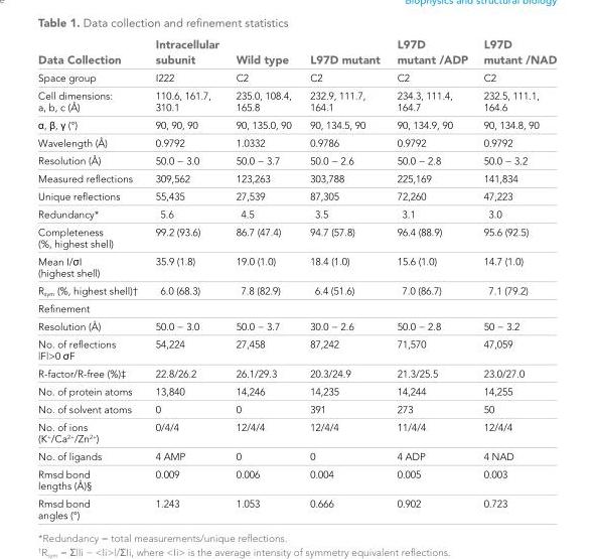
<table><thead><tr><td>Data Collection</td><td>Intracellular subunit</td><td>Wild type</td><td>L97D mutant</td><td>L97D mutant /ADP</td><td>L97D mutant /NAD</td></tr></thead><tbody><tr><td>Space group</td><td>I222</td><td>C2</td><td>C2</td><td>C2</td><td>C2</td></tr><tr><td>Cell dimensions: a, b, c (Å)</td><td>110.6, 161.7, 310.1</td><td>235.0, 108.4, 165.8</td><td>232.9, 111.7, 164.1</td><td>234.3, 111.4, 164.7</td><td>232.5, 111.1, 164.6</td></tr><tr><td>α, β, γ (°)</td><td>90, 90, 90</td><td>90, 135.0, 90</td><td>90, 134.5, 90</td><td>90, 134.9, 90</td><td>90, 134.8, 90</td></tr><tr><td>Wavelength (Å)</td><td>0.9792</td><td>1.0332</td><td>0.9786</td><td>0.9792</td><td>0.9792</td></tr><tr><td>Resolution (Å)</td><td>50.0 − 3.0</td><td>50.0 − 3.7</td><td>50.0 − 2.6</td><td>50.0 − 2.8</td><td>50.0 − 3.2</td></tr><tr><td>Measured reflections</td><td>309,562</td><td>123,263</td><td>303,788</td><td>225,169</td><td>141,834</td></tr><tr><td>Unique reflections</td><td>55,435</td><td>27,539</td><td>87,305</td><td>72,260</td><td>47,223</td></tr><tr><td>Redundancy*</td><td>5.6</td><td>4.5</td><td>3.5</td><td>3.1</td><td>3.0</td></tr><tr><td>Completeness (%, highest shell)</td><td>99.2 (93.6)</td><td>86.7 (47.4)</td><td>94.7 (57.8)</td><td>96.4 (88.9)</td><td>95.6 (92.5)</td></tr><tr><td>Mean I/σI (highest shell)</td><td>35.9 (1.8)</td><td>19.0 (1.0)</td><td>18.4 (1.0)</td><td>15.6 (1.0)</td><td>14.7 (1.0)</td></tr><tr><td>R<sub>sym</sub> (%, highest shell)†</td><td>6.0 (68.3)</td><td>7.8 (82.9)</td><td>6.4 (51.6)</td><td>7.0 (86.7)</td><td>7.1 (79.2)</td></tr><tr><td colspan="6">Refinement</td></tr><tr><td>Resolution (Å)</td><td>50.0 − 3.0</td><td>50.0 − 3.7</td><td>30.0 − 2.6</td><td>50.0 − 2.8</td><td>50 − 3.2</td></tr><tr><td>No. of reflections |F|&gt;0 σF</td><td>54,224</td><td>27,458</td><td>87,242</td><td>71,570</td><td>47,059</td></tr><tr><td>R-factor/R-free (%)‡</td><td>22.8/26.2</td><td>26.1/29.3</td><td>20.3/24.9</td><td>21.3/25.5</td><td>23.0/27.0</td></tr><tr><td>No. of protein atoms</td><td>13,840</td><td>14,246</td><td>14,235</td><td>14,244</td><td>14,255</td></tr><tr><td>No. of solvent atoms</td><td>0</td><td>0</td><td>391</td><td>273</td><td>50</td></tr><tr><td>No. of ions (K<sup>+</sup>/Ca<sup>2+</sup>/Zn<sup>2+</sup>)</td><td>0/4/4</td><td>12/4/4</td><td>12/4/4</td><td>11/4/4</td><td>12/4/4</td></tr><tr><td>No. of ligands</td><td>4 AMP</td><td>0</td><td>0</td><td>4 ADP</td><td>4 NAD</td></tr><tr><td>Rmsd bond lengths (Å)§</td><td>0.009</td><td>0.006</td><td>0.004</td><td>0.005</td><td>0.003</td></tr><tr><td>Rmsd bond angles (°)</td><td>1.243</td><td>1.053</td><td>0.666</td><td>0.902</td><td>0.723</td></tr></tbody></table>